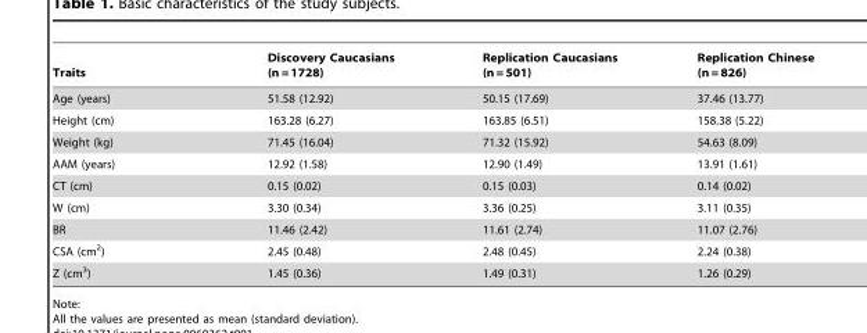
<table><thead><tr><td>Traits</td><td>Discovery Caucasians (n = 1728)</td><td>Replication Caucasians (n = 501)</td><td>Replication Chinese (n = 826)</td></tr></thead><tbody><tr><td>Age (years)</td><td>51.58 (12.92)</td><td>50.15 (17.69)</td><td>37.46 (13.77)</td></tr><tr><td>Height (cm)</td><td>163.28 (6.27)</td><td>163.85 (6.51)</td><td>158.38 (5.22)</td></tr><tr><td>Weight (kg)</td><td>71.45 (16.04)</td><td>71.32 (15.92)</td><td>54.63 (8.09)</td></tr><tr><td>AAM (years)</td><td>12.92 (1.58)</td><td>12.90 (1.49)</td><td>13.91 (1.61)</td></tr><tr><td>CT (cm)</td><td>0.15 (0.02)</td><td>0.15 (0.03)</td><td>0.14 (0.02)</td></tr><tr><td>W (cm)</td><td>3.30 (0.34)</td><td>3.36 (0.25)</td><td>3.11 (0.35)</td></tr><tr><td>BR</td><td>11.46 (2.42)</td><td>11.61 (2.74)</td><td>11.07 (2.76)</td></tr><tr><td>CSA (cm<sup>2</sup>)</td><td>2.45 (0.48)</td><td>2.48 (0.45)</td><td>2.24 (0.38)</td></tr><tr><td>Z (cm<sup>3</sup>)</td><td>1.45 (0.36)</td><td>1.49 (0.31)</td><td>1.26 (0.29)</td></tr></tbody></table>